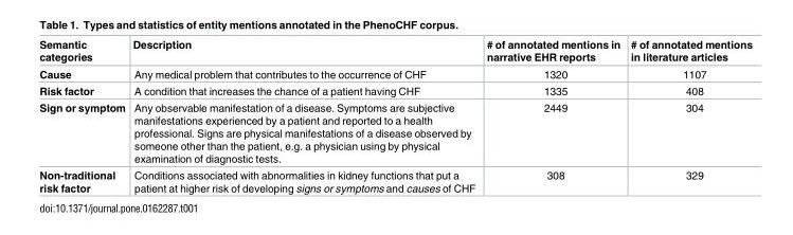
<table><thead><tr><td>Semantic categories</td><td>Description</td><td># of annotated mentions in narrative EHR reports</td><td># of annotated mentions in literature articles</td></tr></thead><tbody><tr><td>Cause</td><td>Any medical problem that contributes to the occurrence of CHF</td><td>1320</td><td>1107</td></tr><tr><td>Risk factor</td><td>A condition that increases the chance of a patient having CHF</td><td>1335</td><td>408</td></tr><tr><td>Sign or symptom</td><td>Any observable manifestation of a disease. Symptoms are subjective manifestations experienced by a patient and reported to a health professional. Signs are physical manifestations of a disease observed by someone other than the patient, e.g. a physician using by physical examination of diagnostic tests.</td><td>2449</td><td>304</td></tr><tr><td>Non-traditional risk factor</td><td>Conditions associated with abnormalities in kidney functions that put a patient at higher risk of developing signs or symptoms and causes of CHF</td><td>308</td><td>329</td></tr></tbody></table>